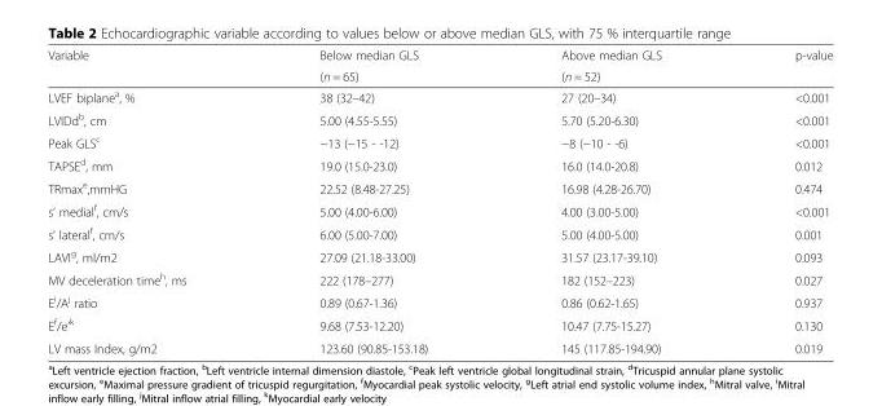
<table><thead><tr><td rowspan="2">Variable</td><td rowspan="2">Below median GLS (n = 65)</td><td rowspan="2">Above median GLS (n = 52)</td><td rowspan="2">p-value</td></tr><tr></tr></thead><tbody><tr><td>LVEF biplane<sup>a</sup>, %</td><td>38 (32–42)</td><td>27 (20–34)</td><td>&lt;0.001</td></tr><tr><td>LVIDd<sup>b</sup>, cm</td><td>5.00 (4.55-5.55)</td><td>5.70 (5.20-6.30)</td><td>&lt;0.001</td></tr><tr><td>Peak GLS<sup>c</sup></td><td>−13 (−15 - -12)</td><td>−8 (−10 - -6)</td><td>&lt;0.001</td></tr><tr><td>TAPSE<sup>d</sup>, mm</td><td>19.0 (15.0-23.0)</td><td>16.0 (14.0-20.8)</td><td>0.012</td></tr><tr><td>TRmax<sup>e</sup>,mmHG</td><td>22.52 (8.48-27.25)</td><td>16.98 (4.28-26.70)</td><td>0.474</td></tr><tr><td>s’ medial<sup>f</sup>, cm/s</td><td>5.00 (4.00-6.00)</td><td>4.00 (3.00-5.00)</td><td>&lt;0.001</td></tr><tr><td>s’ lateral<sup>f</sup>, cm/s</td><td>6.00 (5.00-7.00)</td><td>5.00 (4.00-5.00)</td><td>0.001</td></tr><tr><td>LAVI<sup>g</sup>, ml/m2</td><td>27.09 (21.18-33.00)</td><td>31.57 (23.17-39.10)</td><td>0.093</td></tr><tr><td>MV deceleration time<sup>h</sup>, ms</td><td>222 (178–277)</td><td>182 (152–223)</td><td>0.027</td></tr><tr><td>E<sup>i</sup>/A<sup>j</sup> ratio</td><td>0.89 (0.67-1.36)</td><td>0.86 (0.62-1.65)</td><td>0.937</td></tr><tr><td>E<sup>f</sup>/e’<sup>k</sup></td><td>9.68 (7.53-12.20)</td><td>10.47 (7.75-15.27)</td><td>0.130</td></tr><tr><td>LV mass Index, g/m2</td><td>123.60 (90.85-153.18)</td><td>145 (117.85-194.90)</td><td>0.019</td></tr></tbody></table>